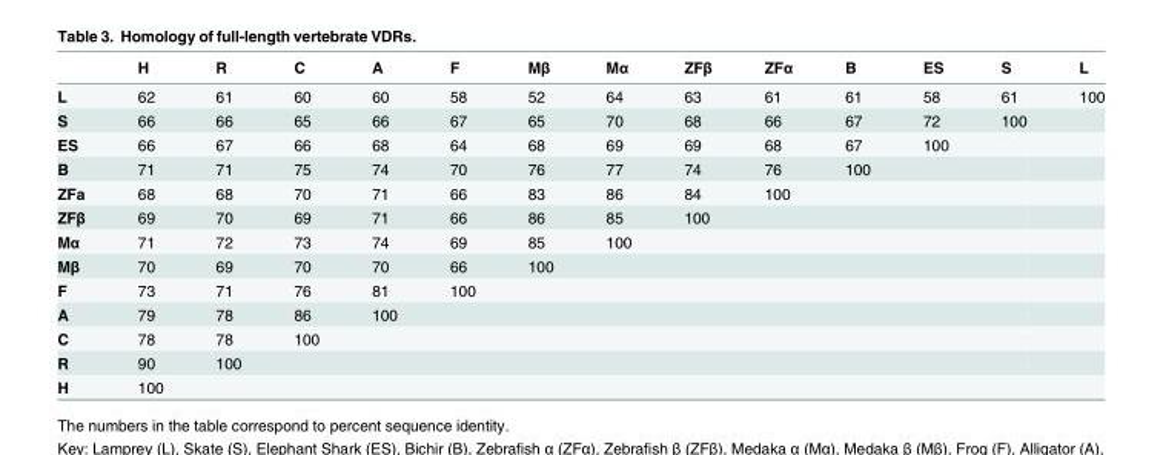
<table><thead><tr><td></td><td>H</td><td>R</td><td>C</td><td>A</td><td>F</td><td>Mβ</td><td>Mα</td><td>ZFβ</td><td>ZFα</td><td>B</td><td>ES</td><td>S</td><td>L</td></tr></thead><tbody><tr><td>L</td><td>62</td><td>61</td><td>60</td><td>60</td><td>58</td><td>52</td><td>64</td><td>63</td><td>61</td><td>61</td><td>58</td><td>61</td><td>100</td></tr><tr><td>S</td><td>66</td><td>66</td><td>65</td><td>66</td><td>67</td><td>65</td><td>70</td><td>68</td><td>66</td><td>67</td><td>72</td><td>100</td><td></td></tr><tr><td>ES</td><td>66</td><td>67</td><td>66</td><td>68</td><td>64</td><td>68</td><td>69</td><td>69</td><td>68</td><td>67</td><td>100</td><td></td><td></td></tr><tr><td>B</td><td>71</td><td>71</td><td>75</td><td>74</td><td>70</td><td>76</td><td>77</td><td>74</td><td>76</td><td>100</td><td></td><td></td><td></td></tr><tr><td>ZFa</td><td>68</td><td>68</td><td>70</td><td>71</td><td>66</td><td>83</td><td>86</td><td>84</td><td>100</td><td></td><td></td><td></td><td></td></tr><tr><td>ZFβ</td><td>69</td><td>70</td><td>69</td><td>71</td><td>66</td><td>86</td><td>85</td><td>100</td><td></td><td></td><td></td><td></td><td></td></tr><tr><td>Mα</td><td>71</td><td>72</td><td>73</td><td>74</td><td>69</td><td>85</td><td>100</td><td></td><td></td><td></td><td></td><td></td><td></td></tr><tr><td>Mβ</td><td>70</td><td>69</td><td>70</td><td>70</td><td>66</td><td>100</td><td></td><td></td><td></td><td></td><td></td><td></td><td></td></tr><tr><td>F</td><td>73</td><td>71</td><td>76</td><td>81</td><td>100</td><td></td><td></td><td></td><td></td><td></td><td></td><td></td><td></td></tr><tr><td>A</td><td>79</td><td>78</td><td>86</td><td>100</td><td></td><td></td><td></td><td></td><td></td><td></td><td></td><td></td><td></td></tr><tr><td>C</td><td>78</td><td>78</td><td>100</td><td></td><td></td><td></td><td></td><td></td><td></td><td></td><td></td><td></td><td></td></tr><tr><td>R</td><td>90</td><td>100</td><td></td><td></td><td></td><td></td><td></td><td></td><td></td><td></td><td></td><td></td><td></td></tr><tr><td>H</td><td>100</td><td></td><td></td><td></td><td></td><td></td><td></td><td></td><td></td><td></td><td></td><td></td><td></td></tr></tbody></table>